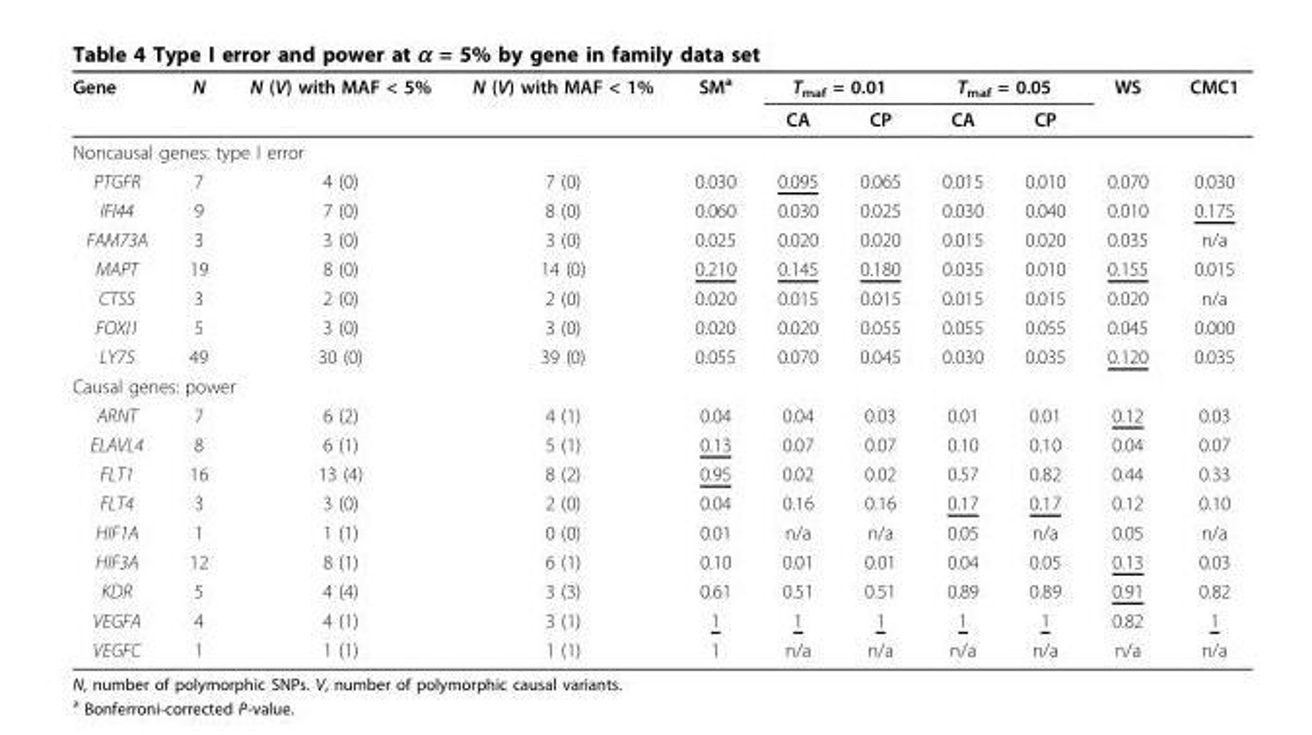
<table><thead><tr><td rowspan="2">Gene</td><td rowspan="2">N</td><td rowspan="2">N (V) with MAF &lt; 5%</td><td rowspan="2">N (V) with MAF &lt; 1%</td><td rowspan="2">SM<sup>a</sup></td><td colspan="2">T<sub>maf</sub> = 0.01</td><td colspan="2">T<sub>maf</sub> = 0.05</td><td rowspan="2">WS</td><td rowspan="2">CMC1</td></tr><tr><td>CA</td><td>CP</td><td>CA</td><td>CP</td></tr></thead><tbody><tr><td colspan="11">Noncausal genes: type I error</td></tr><tr><td>PTGFR</td><td>7</td><td>4 (0)</td><td>7 (0)</td><td>0.030</td><td>0.095</td><td>0.065</td><td>0.015</td><td>0.010</td><td>0.070</td><td>0.030</td></tr><tr><td>IFI44</td><td>9</td><td>7 (0)</td><td>8 (0)</td><td>0.060</td><td>0.030</td><td>0.025</td><td>0.030</td><td>0.040</td><td>0.010</td><td>0.175</td></tr><tr><td>FAM73A</td><td>3</td><td>3 (0)</td><td>3 (0)</td><td>0.025</td><td>0.020</td><td>0.020</td><td>0.015</td><td>0.020</td><td>0.035</td><td>n/a</td></tr><tr><td>MAPT</td><td>19</td><td>8 (0)</td><td>14 (0)</td><td>0.210</td><td>0.145</td><td>0.180</td><td>0.035</td><td>0.010</td><td>0.155</td><td>0.015</td></tr><tr><td>CTSS</td><td>3</td><td>2 (0)</td><td>2 (0)</td><td>0.020</td><td>0.015</td><td>0.015</td><td>0.015</td><td>0.015</td><td>0.020</td><td>n/a</td></tr><tr><td>FOXI1</td><td>5</td><td>3 (0)</td><td>3 (0)</td><td>0.020</td><td>0.020</td><td>0.055</td><td>0.055</td><td>0.055</td><td>0.045</td><td>0.000</td></tr><tr><td>LY75</td><td>49</td><td>30 (0)</td><td>39 (0)</td><td>0.055</td><td>0.070</td><td>0.045</td><td>0.030</td><td>0.035</td><td>0.120</td><td>0.035</td></tr><tr><td colspan="11">Causal genes: power</td></tr><tr><td>ARNT</td><td>7</td><td>6 (2)</td><td>4 (1)</td><td>0.04</td><td>0.04</td><td>0.03</td><td>0.01</td><td>0.01</td><td>0.12</td><td>0.03</td></tr><tr><td>ELAVL4</td><td>8</td><td>6 (1)</td><td>5 (1)</td><td>0.13</td><td>0.07</td><td>0.07</td><td>0.10</td><td>0.10</td><td>0.04</td><td>0.07</td></tr><tr><td>FLT1</td><td>16</td><td>13 (4)</td><td>8 (2)</td><td>0.95</td><td>0.02</td><td>0.02</td><td>0.57</td><td>0.82</td><td>0.44</td><td>0.33</td></tr><tr><td>FLT4</td><td>3</td><td>3 (0)</td><td>2 (0)</td><td>0.04</td><td>0.16</td><td>0.16</td><td>0.17</td><td>0.17</td><td>0.12</td><td>0.10</td></tr><tr><td>HIF1A</td><td>1</td><td>1 (1)</td><td>0 (0)</td><td>0.01</td><td>n/a</td><td>n/a</td><td>0.05</td><td>n/a</td><td>0.05</td><td>n/a</td></tr><tr><td>HIF3A</td><td>12</td><td>8 (1)</td><td>6 (1)</td><td>0.10</td><td>0.01</td><td>0.01</td><td>0.04</td><td>0.05</td><td>0.13</td><td>0.03</td></tr><tr><td>KDR</td><td>5</td><td>4 (4)</td><td>3 (3)</td><td>0.61</td><td>0.51</td><td>0.51</td><td>0.89</td><td>0.89</td><td>0.91</td><td>0.82</td></tr><tr><td>VEGFA</td><td>4</td><td>4 (1)</td><td>3 (1)</td><td>1</td><td>1</td><td>1</td><td>1</td><td>1</td><td>0.82</td><td>1</td></tr><tr><td>VEGFC</td><td>1</td><td>1 (1)</td><td>1 (1)</td><td>1</td><td>n/a</td><td>n/a</td><td>n/a</td><td>n/a</td><td>n/a</td><td>n/a</td></tr></tbody></table>